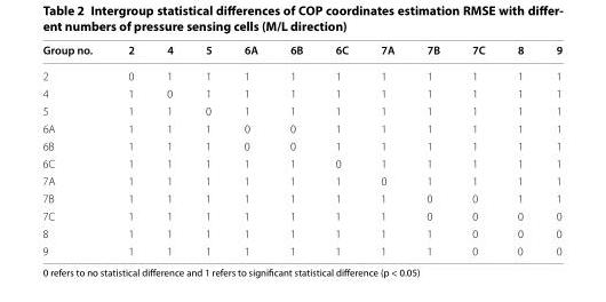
<table><thead><tr><td>Group no.</td><td>2</td><td>4</td><td>5</td><td>6A</td><td>6B</td><td>6C</td><td>7A</td><td>7B</td><td>7C</td><td>8</td><td>9</td></tr></thead><tbody><tr><td>2</td><td>0</td><td>1</td><td>1</td><td>1</td><td>1</td><td>1</td><td>1</td><td>1</td><td>1</td><td>1</td><td>1</td></tr><tr><td>4</td><td>1</td><td>0</td><td>1</td><td>1</td><td>1</td><td>1</td><td>1</td><td>1</td><td>1</td><td>1</td><td>1</td></tr><tr><td>5</td><td>1</td><td>1</td><td>0</td><td>1</td><td>1</td><td>1</td><td>1</td><td>1</td><td>1</td><td>1</td><td>1</td></tr><tr><td>6A</td><td>1</td><td>1</td><td>1</td><td>0</td><td>0</td><td>1</td><td>1</td><td>1</td><td>1</td><td>1</td><td>1</td></tr><tr><td>6B</td><td>1</td><td>1</td><td>1</td><td>0</td><td>0</td><td>1</td><td>1</td><td>1</td><td>1</td><td>1</td><td>1</td></tr><tr><td>6C</td><td>1</td><td>1</td><td>1</td><td>1</td><td>1</td><td>0</td><td>1</td><td>1</td><td>1</td><td>1</td><td>1</td></tr><tr><td>7A</td><td>1</td><td>1</td><td>1</td><td>1</td><td>1</td><td>1</td><td>0</td><td>1</td><td>1</td><td>1</td><td>1</td></tr><tr><td>7B</td><td>1</td><td>1</td><td>1</td><td>1</td><td>1</td><td>1</td><td>1</td><td>0</td><td>0</td><td>1</td><td>1</td></tr><tr><td>7C</td><td>1</td><td>1</td><td>1</td><td>1</td><td>1</td><td>1</td><td>1</td><td>0</td><td>0</td><td>0</td><td>0</td></tr><tr><td>8</td><td>1</td><td>1</td><td>1</td><td>1</td><td>1</td><td>1</td><td>1</td><td>1</td><td>0</td><td>0</td><td>0</td></tr><tr><td>9</td><td>1</td><td>1</td><td>1</td><td>1</td><td>1</td><td>1</td><td>1</td><td>1</td><td>0</td><td>0</td><td>0</td></tr></tbody></table>